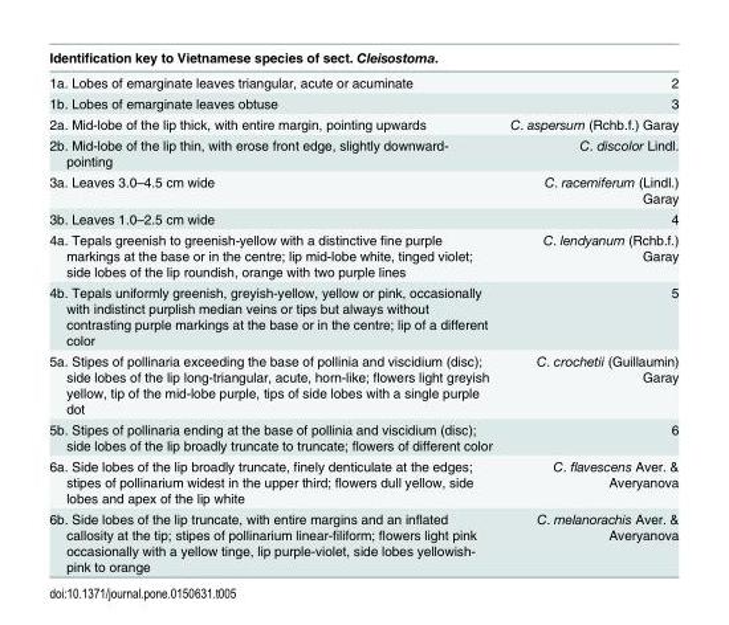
<table><thead><tr><td>Identification key to Vietnamese species of sect. Cleisostoma.</td><td></td></tr></thead><tbody><tr><td>1a. Lobes of emarginate leaves triangular, acute or acuminate</td><td>2</td></tr><tr><td>1b. Lobes of emarginate leaves obtuse</td><td>3</td></tr><tr><td>2a. Mid-lobe of the lip thick, with entire margin, pointing upwards</td><td>C. aspersum (Rchb.f.) Garay</td></tr><tr><td>2b. Mid-lobe of the lip thin, with erose front edge, slightly downward- pointing</td><td>C. discolor Lindl.</td></tr><tr><td>3a. Leaves 3.0–4.5 cm wide</td><td>C. racemiferum (Lindl.) Garay</td></tr><tr><td>3b. Leaves 1.0–2.5 cm wide</td><td>4</td></tr><tr><td>4a. Tepals greenish to greenish-yellow with a distinctive fine purple markings at the base or in the centre; lip mid-lobe white, tinged violet; side lobes of the lip roundish, orange with two purple lines</td><td>C. lendyanum (Rchb.f.) Garay</td></tr><tr><td>4b. Tepals uniformly greenish, greyish-yellow, yellow or pink, occasionally with indistinct purplish median veins or tips but always without contrasting purple markings at the base or in the centre; lip of a different color</td><td>5</td></tr><tr><td>5a. Stipes of pollinaria exceeding the base of pollinia and viscidium (disc); side lobes of the lip long-triangular, acute, horn-like; flowers light greyish yellow, tip of the mid-lobe purple, tips of side lobes with a single purple dot</td><td>C. crochetii (Guillaumin) Garay</td></tr><tr><td>5b. Stipes of pollinaria ending at the base of pollinia and viscidium (disc); side lobes of the lip broadly truncate to truncate; flowers of different color</td><td>6</td></tr><tr><td>6a. Side lobes of the lip broadly truncate, finely denticulate at the edges; stipes of pollinarium widest in the upper third; flowers dull yellow, side lobes and apex of the lip white</td><td>C. flavescens Aver. &amp; Averyanova</td></tr><tr><td>6b. Side lobes of the lip truncate, with entire margins and an inflated callosity at the tip; stipes of pollinarium linear-filiform; flowers light pink occasionally with a yellow tinge, lip purple-violet, side lobes yellowish- pink to orange</td><td>C. melanorachis Aver. &amp; Averyanova</td></tr></tbody></table>